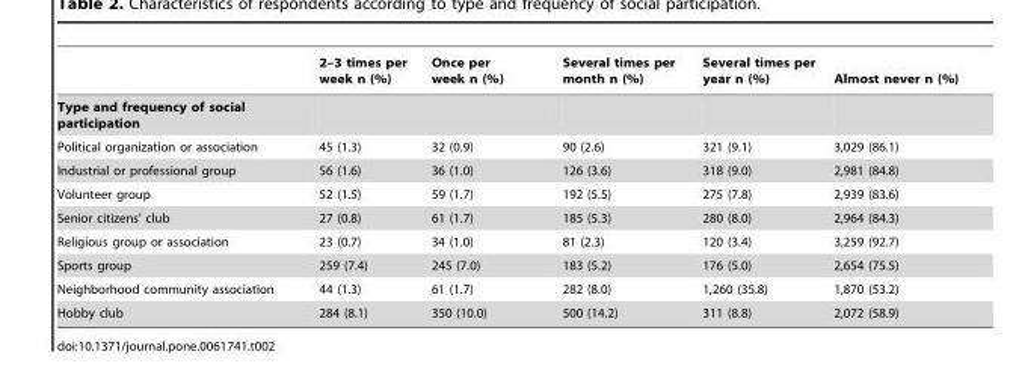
<table><thead><tr><td></td><td>2–3 times per week n (%)</td><td>Once per week n (%)</td><td>Several times per month n (%)</td><td>Several times per year n (%)</td><td>Almost never n (%)</td></tr></thead><tbody><tr><td colspan="6">Type and frequency of social participation</td></tr><tr><td>Political organization or association</td><td>45 (1.3)</td><td>32 (0.9)</td><td>90 (2.6)</td><td>321 (9.1)</td><td>3,029 (86.1)</td></tr><tr><td>Industrial or professional group</td><td>56 (1.6)</td><td>36 (1.0)</td><td>126 (3.6)</td><td>318 (9.0)</td><td>2,981 (84.8)</td></tr><tr><td>Volunteer group</td><td>52 (1.5)</td><td>59 (1.7)</td><td>192 (5.5)</td><td>275 (7.8)</td><td>2,939 (83.6)</td></tr><tr><td>Senior citizens’ club</td><td>27 (0.8)</td><td>61 (1.7)</td><td>185 (5.3)</td><td>280 (8.0)</td><td>2,964 (84.3)</td></tr><tr><td>Religious group or association</td><td>23 (0.7)</td><td>34 (1.0)</td><td>81 (2.3)</td><td>120 (3.4)</td><td>3,259 (92.7)</td></tr><tr><td>Sports group</td><td>259 (7.4)</td><td>245 (7.0)</td><td>183 (5.2)</td><td>176 (5.0)</td><td>2,654 (75.5)</td></tr><tr><td>Neighborhood community association</td><td>44 (1.3)</td><td>61 (1.7)</td><td>282 (8.0)</td><td>1,260 (35.8)</td><td>1,870 (53.2)</td></tr><tr><td>Hobby club</td><td>284 (8.1)</td><td>350 (10.0)</td><td>500 (14.2)</td><td>311 (8.8)</td><td>2,072 (58.9)</td></tr></tbody></table>